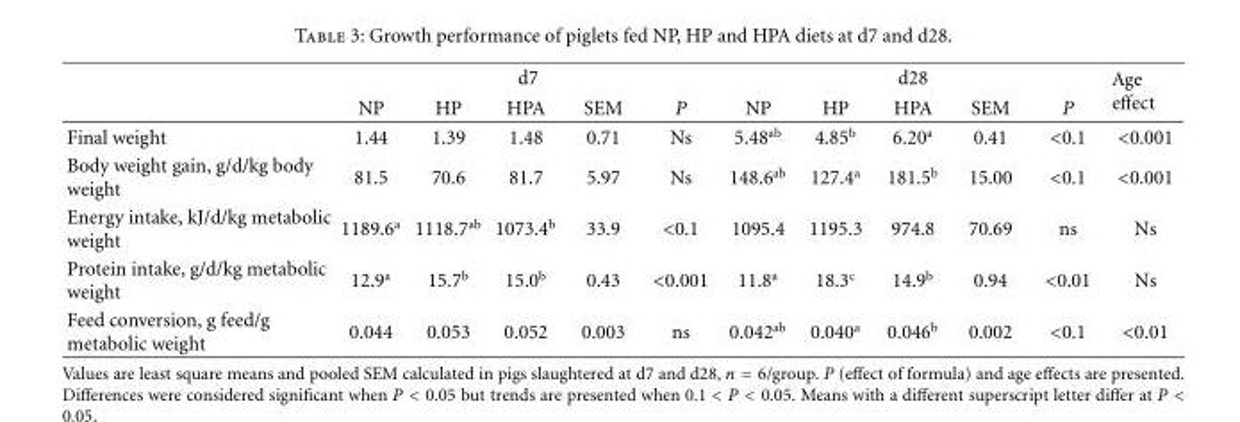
<table><thead><tr><td rowspan="2"></td><td colspan="5">d7</td><td colspan="5">d28</td><td rowspan="2">Age effect</td></tr><tr><td>NP</td><td>HP</td><td>HPA</td><td>SEM</td><td>P</td><td>NP</td><td>HP</td><td>HPA</td><td>SEM</td><td>P</td></tr></thead><tbody><tr><td>Final weight</td><td>1.44</td><td>1.39</td><td>1.48</td><td>0.71</td><td>Ns</td><td>5.48<sup>ab</sup></td><td>4.85<sup>b</sup></td><td>6.20<sup>a</sup></td><td>0.41</td><td>&lt;0.1</td><td>&lt;0.001</td></tr><tr><td>Body weight gain, g/d/kg body weight</td><td>81.5</td><td>70.6</td><td>81.7</td><td>5.97</td><td>Ns</td><td>148.6<sup>ab</sup></td><td>127.4<sup>a</sup></td><td>181.5<sup>b</sup></td><td>15.00</td><td>&lt;0.1</td><td>&lt;0.001</td></tr><tr><td>Energy intake, kJ/d/kg metabolic weight</td><td>1189.6<sup>a</sup></td><td>1118.7<sup>ab</sup></td><td>1073.4<sup>b</sup></td><td>33.9</td><td>&lt;0.1</td><td>1095.4</td><td>1195.3</td><td>974.8</td><td>70.69</td><td>ns</td><td>Ns</td></tr><tr><td>Protein intake, g/d/kg metabolic weight</td><td>12.9<sup>a</sup></td><td>15.7<sup>b</sup></td><td>15.0<sup>b</sup></td><td>0.43</td><td>&lt;0.001</td><td>11.8<sup>a</sup></td><td>18.3<sup>c</sup></td><td>14.9<sup>b</sup></td><td>0.94</td><td>&lt;0.01</td><td>Ns</td></tr><tr><td>Feed conversion, g feed/g metabolic weight</td><td>0.044</td><td>0.053</td><td>0.052</td><td>0.003</td><td>ns</td><td>0.042<sup>ab</sup></td><td>0.040<sup>a</sup></td><td>0.046<sup>b</sup></td><td>0.002</td><td>&lt;0.1</td><td>&lt;0.01</td></tr></tbody></table>